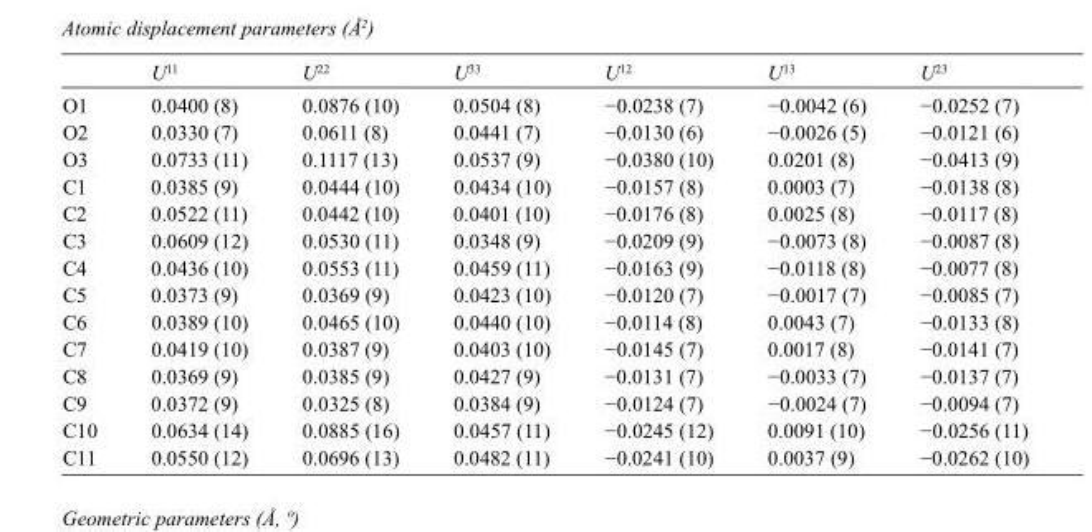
<table><thead><tr><td></td><td>U<sup>11</sup></td><td>U<sup>22</sup></td><td>U<sup>33</sup></td><td>U<sup>12</sup></td><td>U<sup>13</sup></td><td>U<sup>23</sup></td></tr></thead><tbody><tr><td>O1</td><td>0.0400 (8)</td><td>0.0876 (10)</td><td>0.0504 (8)</td><td>−0.0238 (7)</td><td>−0.0042 (6)</td><td>−0.0252 (7)</td></tr><tr><td>O2</td><td>0.0330 (7)</td><td>0.0611 (8)</td><td>0.0441 (7)</td><td>−0.0130 (6)</td><td>−0.0026 (5)</td><td>−0.0121 (6)</td></tr><tr><td>O3</td><td>0.0733 (11)</td><td>0.1117 (13)</td><td>0.0537 (9)</td><td>−0.0380 (10)</td><td>0.0201 (8)</td><td>−0.0413 (9)</td></tr><tr><td>C1</td><td>0.0385 (9)</td><td>0.0444 (10)</td><td>0.0434 (10)</td><td>−0.0157 (8)</td><td>0.0003 (7)</td><td>−0.0138 (8)</td></tr><tr><td>C2</td><td>0.0522 (11)</td><td>0.0442 (10)</td><td>0.0401 (10)</td><td>−0.0176 (8)</td><td>0.0025 (8)</td><td>−0.0117 (8)</td></tr><tr><td>C3</td><td>0.0609 (12)</td><td>0.0530 (11)</td><td>0.0348 (9)</td><td>−0.0209 (9)</td><td>−0.0073 (8)</td><td>−0.0087 (8)</td></tr><tr><td>C4</td><td>0.0436 (10)</td><td>0.0553 (11)</td><td>0.0459 (11)</td><td>−0.0163 (9)</td><td>−0.0118 (8)</td><td>−0.0077 (8)</td></tr><tr><td>C5</td><td>0.0373 (9)</td><td>0.0369 (9)</td><td>0.0423 (10)</td><td>−0.0120 (7)</td><td>−0.0017 (7)</td><td>−0.0085 (7)</td></tr><tr><td>C6</td><td>0.0389 (10)</td><td>0.0465 (10)</td><td>0.0440 (10)</td><td>−0.0114 (8)</td><td>0.0043 (7)</td><td>−0.0133 (8)</td></tr><tr><td>C7</td><td>0.0419 (10)</td><td>0.0387 (9)</td><td>0.0403 (10)</td><td>−0.0145 (7)</td><td>0.0017 (8)</td><td>−0.0141 (7)</td></tr><tr><td>C8</td><td>0.0369 (9)</td><td>0.0385 (9)</td><td>0.0427 (9)</td><td>−0.0131 (7)</td><td>−0.0033 (7)</td><td>−0.0137 (7)</td></tr><tr><td>C9</td><td>0.0372 (9)</td><td>0.0325 (8)</td><td>0.0384 (9)</td><td>−0.0124 (7)</td><td>−0.0024 (7)</td><td>−0.0094 (7)</td></tr><tr><td>C10</td><td>0.0634 (14)</td><td>0.0885 (16)</td><td>0.0457 (11)</td><td>−0.0245 (12)</td><td>0.0091 (10)</td><td>−0.0256 (11)</td></tr><tr><td>C11</td><td>0.0550 (12)</td><td>0.0696 (13)</td><td>0.0482 (11)</td><td>−0.0241 (10)</td><td>0.0037 (9)</td><td>−0.0262 (10)</td></tr></tbody></table>